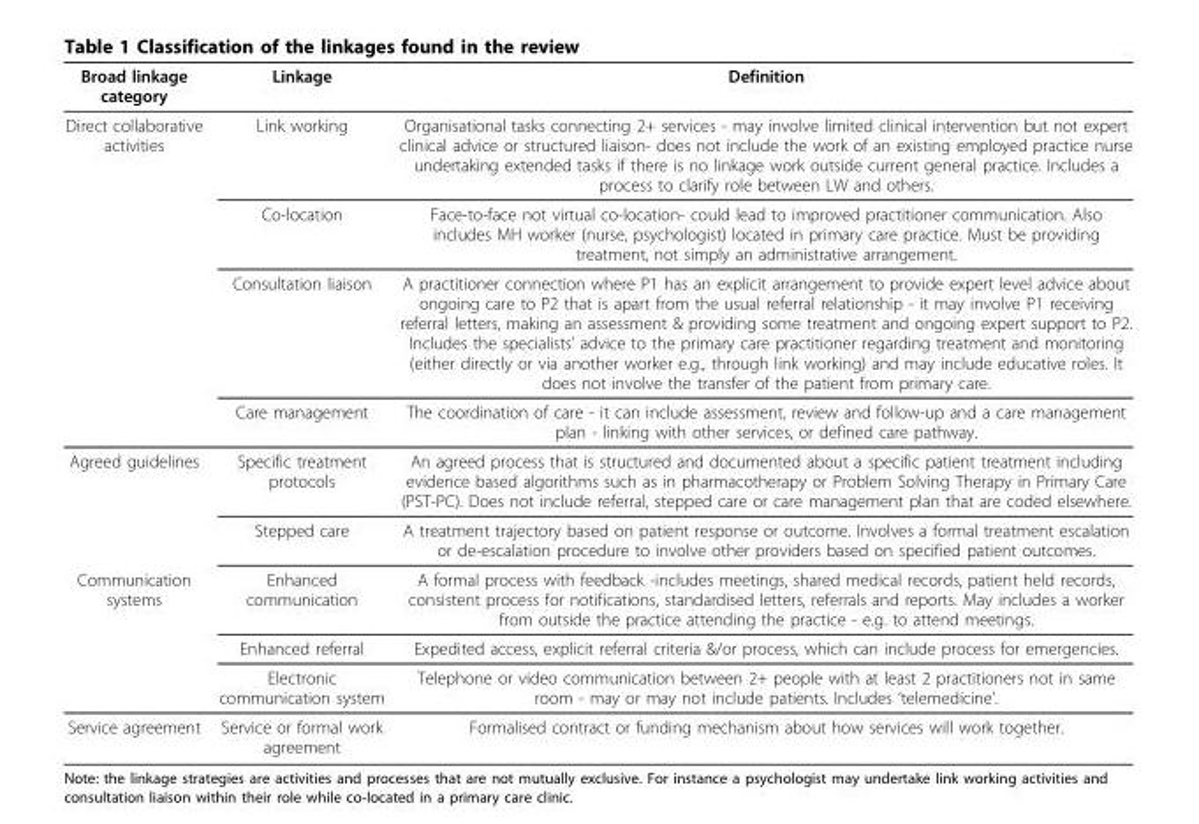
<table><thead><tr><td>Broad linkage category</td><td>Linkage</td><td>Definition</td></tr></thead><tbody><tr><td rowspan="4">Direct collaborative activities</td><td>Link working</td><td>Organisational tasks connecting 2+ services - may involve limited clinical intervention but not expert clinical advice or structured liaison- does not include the work of an existing employed practice nurse undertaking extended tasks if there is no linkage work outside current general practice. Includes a process to clarify role between LW and others.</td></tr><tr><td>Co-location</td><td>Face-to-face not virtual co-location- could lead to improved practitioner communication. Also includes MH worker (nurse, psychologist) located in primary care practice. Must be providing treatment, not simply an administrative arrangement.</td></tr><tr><td>Consultation liaison</td><td>A practitioner connection where P1 has an explicit arrangement to provide expert level advice about ongoing care to P2 that is apart from the usual referral relationship - it may involve P1 receiving referral letters, making an assessment &amp; providing some treatment and ongoing expert support to P2. Includes the specialists’ advice to the primary care practitioner regarding treatment and monitoring (either directly or via another worker e.g., through link working) and may include educative roles. It does not involve the transfer of the patient from primary care.</td></tr><tr><td>Care management</td><td>The coordination of care - it can include assessment, review and follow-up and a care management plan - linking with other services, or defined care pathway.</td></tr><tr><td rowspan="2">Agreed guidelines</td><td>Specific treatment protocols</td><td>An agreed process that is structured and documented about a specific patient treatment including evidence based algorithms such as in pharmacotherapy or Problem Solving Therapy in Primary Care (PST-PC). Does not include referral, stepped care or care management plan that are coded elsewhere.</td></tr><tr><td>Stepped care</td><td>A treatment trajectory based on patient response or outcome. Involves a formal treatment escalation or de-escalation procedure to involve other providers based on specified patient outcomes.</td></tr><tr><td rowspan="3">Communication systems</td><td>Enhanced communication</td><td>A formal process with feedback -includes meetings, shared medical records, patient held records, consistent process for notifications, standardised letters, referrals and reports. May includes a worker from outside the practice attending the practice - e.g. to attend meetings.</td></tr><tr><td>Enhanced referral</td><td>Expedited access, explicit referral criteria &amp;/or process, which can include process for emergencies.</td></tr><tr><td>Electronic communication system</td><td>Telephone or video communication between 2+ people with at least 2 practitioners not in same room - may or may not include patients. Includes ‘telemedicine’.</td></tr><tr><td>Service agreement</td><td>Service or formal work agreement</td><td>Formalised contract or funding mechanism about how services will work together.</td></tr></tbody></table>